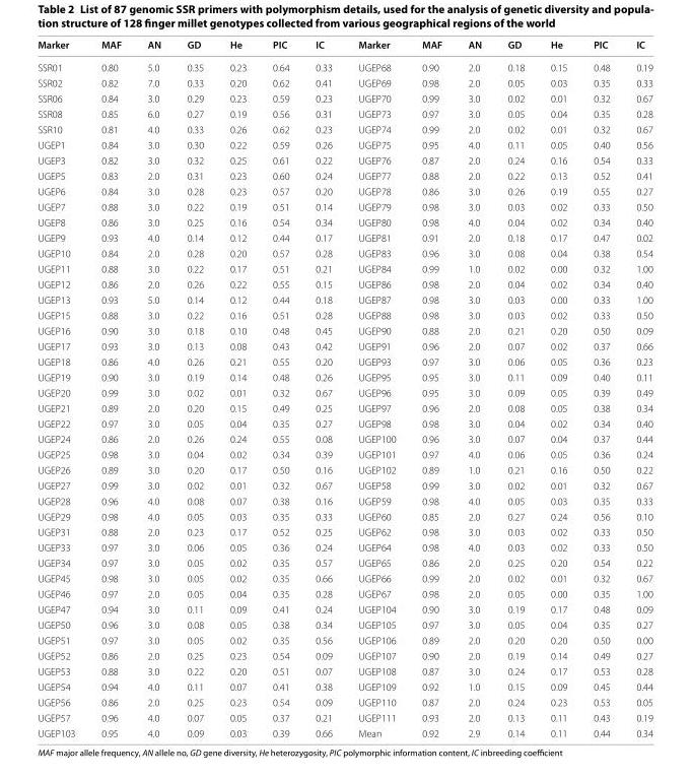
<table><thead><tr><td>Marker</td><td>MAF</td><td>AN</td><td>GD</td><td>He</td><td>PIC</td><td>IC</td><td>Marker</td><td>MAF</td><td>AN</td><td>GD</td><td>He</td><td>PIC</td><td>IC</td></tr></thead><tbody><tr><td>SSR01</td><td>0.80</td><td>5.0</td><td>0.35</td><td>0.23</td><td>0.64</td><td>0.33</td><td>UGEP68</td><td>0.90</td><td>2.0</td><td>0.18</td><td>0.15</td><td>0.48</td><td>0.19</td></tr><tr><td>SSR02</td><td>0.82</td><td>7.0</td><td>0.33</td><td>0.20</td><td>0.62</td><td>0.41</td><td>UGEP69</td><td>0.98</td><td>2.0</td><td>0.05</td><td>0.03</td><td>0.35</td><td>0.33</td></tr><tr><td>SSR06</td><td>0.84</td><td>3.0</td><td>0.29</td><td>0.23</td><td>0.59</td><td>0.23</td><td>UGEP70</td><td>0.99</td><td>3.0</td><td>0.02</td><td>0.01</td><td>0.32</td><td>0.67</td></tr><tr><td>SSR08</td><td>0.85</td><td>6.0</td><td>0.27</td><td>0.19</td><td>0.56</td><td>0.31</td><td>UGEP73</td><td>0.97</td><td>3.0</td><td>0.05</td><td>0.04</td><td>0.35</td><td>0.28</td></tr><tr><td>SSR10</td><td>0.81</td><td>4.0</td><td>0.33</td><td>0.26</td><td>0.62</td><td>0.23</td><td>UGEP74</td><td>0.99</td><td>2.0</td><td>0.02</td><td>0.01</td><td>0.32</td><td>0.67</td></tr><tr><td>UGEP1</td><td>0.84</td><td>3.0</td><td>0.30</td><td>0.22</td><td>0.59</td><td>0.26</td><td>UGEP75</td><td>0.95</td><td>4.0</td><td>0.11</td><td>0.05</td><td>0.40</td><td>0.56</td></tr><tr><td>UGEP3</td><td>0.82</td><td>3.0</td><td>0.32</td><td>0.25</td><td>0.61</td><td>0.22</td><td>UGEP76</td><td>0.87</td><td>2.0</td><td>0.24</td><td>0.16</td><td>0.54</td><td>0.33</td></tr><tr><td>UGEP5</td><td>0.83</td><td>2.0</td><td>0.31</td><td>0.23</td><td>0.60</td><td>0.24</td><td>UGEP77</td><td>0.88</td><td>2.0</td><td>0.22</td><td>0.13</td><td>0.52</td><td>0.41</td></tr><tr><td>UGEP6</td><td>0.84</td><td>3.0</td><td>0.28</td><td>0.23</td><td>0.57</td><td>0.20</td><td>UGEP78</td><td>0.86</td><td>3.0</td><td>0.26</td><td>0.19</td><td>0.55</td><td>0.27</td></tr><tr><td>UGEP7</td><td>0.88</td><td>3.0</td><td>0.22</td><td>0.19</td><td>0.51</td><td>0.14</td><td>UGEP79</td><td>0.98</td><td>3.0</td><td>0.03</td><td>0.02</td><td>0.33</td><td>0.50</td></tr><tr><td>UGEP8</td><td>0.86</td><td>3.0</td><td>0.25</td><td>0.16</td><td>0.54</td><td>0.34</td><td>UGEP80</td><td>0.98</td><td>4.0</td><td>0.04</td><td>0.02</td><td>0.34</td><td>0.40</td></tr><tr><td>UGEP9</td><td>0.93</td><td>4.0</td><td>0.14</td><td>0.12</td><td>0.44</td><td>0.17</td><td>UGEP81</td><td>0.91</td><td>2.0</td><td>0.18</td><td>0.17</td><td>0.47</td><td>0.02</td></tr><tr><td>UGEP10</td><td>0.84</td><td>2.0</td><td>0.28</td><td>0.20</td><td>0.57</td><td>0.28</td><td>UGEP83</td><td>0.96</td><td>3.0</td><td>0.08</td><td>0.04</td><td>0.38</td><td>0.54</td></tr><tr><td>UGEP11</td><td>0.88</td><td>3.0</td><td>0.22</td><td>0.17</td><td>0.51</td><td>0.21</td><td>UGEP84</td><td>0.99</td><td>1.0</td><td>0.02</td><td>0.00</td><td>0.32</td><td>1.00</td></tr><tr><td>UGEP12</td><td>0.86</td><td>2.0</td><td>0.26</td><td>0.22</td><td>0.55</td><td>0.15</td><td>UGEP86</td><td>0.98</td><td>2.0</td><td>0.04</td><td>0.02</td><td>0.34</td><td>0.40</td></tr><tr><td>UGEP13</td><td>0.93</td><td>5.0</td><td>0.14</td><td>0.12</td><td>0.44</td><td>0.18</td><td>UGEP87</td><td>0.98</td><td>3.0</td><td>0.03</td><td>0.00</td><td>0.33</td><td>1.00</td></tr><tr><td>UGEP15</td><td>0.88</td><td>3.0</td><td>0.22</td><td>0.16</td><td>0.51</td><td>0.28</td><td>UGEP88</td><td>0.98</td><td>3.0</td><td>0.03</td><td>0.02</td><td>0.33</td><td>0.50</td></tr><tr><td>UGEP16</td><td>0.90</td><td>3.0</td><td>0.18</td><td>0.10</td><td>0.48</td><td>0.45</td><td>UGEP90</td><td>0.88</td><td>2.0</td><td>0.21</td><td>0.20</td><td>0.50</td><td>0.09</td></tr><tr><td>UGEP17</td><td>0.93</td><td>3.0</td><td>0.13</td><td>0.08</td><td>0.43</td><td>0.42</td><td>UGEP91</td><td>0.96</td><td>2.0</td><td>0.07</td><td>0.02</td><td>0.37</td><td>0.66</td></tr><tr><td>UGEP18</td><td>0.86</td><td>4.0</td><td>0.26</td><td>0.21</td><td>0.55</td><td>0.20</td><td>UGEP93</td><td>0.97</td><td>3.0</td><td>0.06</td><td>0.05</td><td>0.36</td><td>0.23</td></tr><tr><td>UGEP19</td><td>0.90</td><td>3.0</td><td>0.19</td><td>0.14</td><td>0.48</td><td>0.26</td><td>UGEP95</td><td>0.95</td><td>3.0</td><td>0.11</td><td>0.09</td><td>0.40</td><td>0.11</td></tr><tr><td>UGEP20</td><td>0.99</td><td>3.0</td><td>0.02</td><td>0.01</td><td>0.32</td><td>0.67</td><td>UGEP96</td><td>0.95</td><td>3.0</td><td>0.09</td><td>0.05</td><td>0.39</td><td>0.49</td></tr><tr><td>UGEP21</td><td>0.89</td><td>2.0</td><td>0.20</td><td>0.15</td><td>0.49</td><td>0.25</td><td>UGEP97</td><td>0.96</td><td>2.0</td><td>0.08</td><td>0.05</td><td>0.38</td><td>0.34</td></tr><tr><td>UGEP22</td><td>0.97</td><td>3.0</td><td>0.05</td><td>0.04</td><td>0.35</td><td>0.27</td><td>UGEP98</td><td>0.98</td><td>3.0</td><td>0.04</td><td>0.02</td><td>0.34</td><td>0.40</td></tr><tr><td>UGEP24</td><td>0.86</td><td>2.0</td><td>0.26</td><td>0.24</td><td>0.55</td><td>0.08</td><td>UGEP100</td><td>0.96</td><td>3.0</td><td>0.07</td><td>0.04</td><td>0.37</td><td>0.44</td></tr><tr><td>UGEP25</td><td>0.98</td><td>3.0</td><td>0.04</td><td>0.02</td><td>0.34</td><td>0.39</td><td>UGEP101</td><td>0.97</td><td>4.0</td><td>0.06</td><td>0.05</td><td>0.36</td><td>0.24</td></tr><tr><td>UGEP26</td><td>0.89</td><td>3.0</td><td>0.20</td><td>0.17</td><td>0.50</td><td>0.16</td><td>UGEP102</td><td>0.89</td><td>1.0</td><td>0.21</td><td>0.16</td><td>0.50</td><td>0.22</td></tr><tr><td>UGEP27</td><td>0.99</td><td>3.0</td><td>0.02</td><td>0.01</td><td>0.32</td><td>0.67</td><td>UGEP58</td><td>0.99</td><td>3.0</td><td>0.02</td><td>0.01</td><td>0.32</td><td>0.67</td></tr><tr><td>UGEP28</td><td>0.96</td><td>4.0</td><td>0.08</td><td>0.07</td><td>0.38</td><td>0.16</td><td>UGEP59</td><td>0.98</td><td>4.0</td><td>0.05</td><td>0.03</td><td>0.35</td><td>0.33</td></tr><tr><td>UGEP29</td><td>0.98</td><td>4.0</td><td>0.05</td><td>0.03</td><td>0.35</td><td>0.33</td><td>UGEP60</td><td>0.85</td><td>2.0</td><td>0.27</td><td>0.24</td><td>0.56</td><td>0.10</td></tr><tr><td>UGEP31</td><td>0.88</td><td>2.0</td><td>0.23</td><td>0.17</td><td>0.52</td><td>0.25</td><td>UGEP62</td><td>0.98</td><td>3.0</td><td>0.03</td><td>0.02</td><td>0.33</td><td>0.50</td></tr><tr><td>UGEP33</td><td>0.97</td><td>3.0</td><td>0.06</td><td>0.05</td><td>0.36</td><td>0.24</td><td>UGEP64</td><td>0.98</td><td>4.0</td><td>0.03</td><td>0.02</td><td>0.33</td><td>0.50</td></tr><tr><td>UGEP34</td><td>0.97</td><td>3.0</td><td>0.05</td><td>0.02</td><td>0.35</td><td>0.57</td><td>UGEP65</td><td>0.86</td><td>2.0</td><td>0.25</td><td>0.20</td><td>0.54</td><td>0.22</td></tr><tr><td>UGEP45</td><td>0.98</td><td>3.0</td><td>0.05</td><td>0.02</td><td>0.35</td><td>0.66</td><td>UGEP66</td><td>0.99</td><td>2.0</td><td>0.02</td><td>0.01</td><td>0.32</td><td>0.67</td></tr><tr><td>UGEP46</td><td>0.97</td><td>2.0</td><td>0.05</td><td>0.04</td><td>0.35</td><td>0.28</td><td>UGEP67</td><td>0.98</td><td>2.0</td><td>0.05</td><td>0.00</td><td>0.35</td><td>1.00</td></tr><tr><td>UGEP47</td><td>0.94</td><td>3.0</td><td>0.11</td><td>0.09</td><td>0.41</td><td>0.24</td><td>UGEP104</td><td>0.90</td><td>3.0</td><td>0.19</td><td>0.17</td><td>0.48</td><td>0.09</td></tr><tr><td>UGEP50</td><td>0.96</td><td>3.0</td><td>0.08</td><td>0.05</td><td>0.38</td><td>0.34</td><td>UGEP105</td><td>0.97</td><td>3.0</td><td>0.05</td><td>0.04</td><td>0.35</td><td>0.27</td></tr><tr><td>UGEP51</td><td>0.97</td><td>3.0</td><td>0.05</td><td>0.02</td><td>0.35</td><td>0.56</td><td>UGEP106</td><td>0.89</td><td>2.0</td><td>0.20</td><td>0.20</td><td>0.50</td><td>0.00</td></tr><tr><td>UGEP52</td><td>0.86</td><td>2.0</td><td>0.25</td><td>0.23</td><td>0.54</td><td>0.09</td><td>UGEP107</td><td>0.90</td><td>2.0</td><td>0.19</td><td>0.14</td><td>0.49</td><td>0.27</td></tr><tr><td>UGEP53</td><td>0.88</td><td>3.0</td><td>0.22</td><td>0.20</td><td>0.51</td><td>0.07</td><td>UGEP108</td><td>0.87</td><td>3.0</td><td>0.24</td><td>0.17</td><td>0.53</td><td>0.28</td></tr><tr><td>UGEP54</td><td>0.94</td><td>4.0</td><td>0.11</td><td>0.07</td><td>0.41</td><td>0.38</td><td>UGEP109</td><td>0.92</td><td>1.0</td><td>0.15</td><td>0.09</td><td>0.45</td><td>0.44</td></tr><tr><td>UGEP56</td><td>0.86</td><td>2.0</td><td>0.25</td><td>0.23</td><td>0.54</td><td>0.09</td><td>UGEP110</td><td>0.87</td><td>2.0</td><td>0.24</td><td>0.23</td><td>0.53</td><td>0.05</td></tr><tr><td>UGEP57</td><td>0.96</td><td>4.0</td><td>0.07</td><td>0.05</td><td>0.37</td><td>0.21</td><td>UGEP111</td><td>0.93</td><td>2.0</td><td>0.13</td><td>0.11</td><td>0.43</td><td>0.19</td></tr><tr><td>UGEP103</td><td>0.95</td><td>4.0</td><td>0.09</td><td>0.03</td><td>0.39</td><td>0.66</td><td>Mean</td><td>0.92</td><td>2.9</td><td>0.14</td><td>0.11</td><td>0.44</td><td>0.34</td></tr></tbody></table>